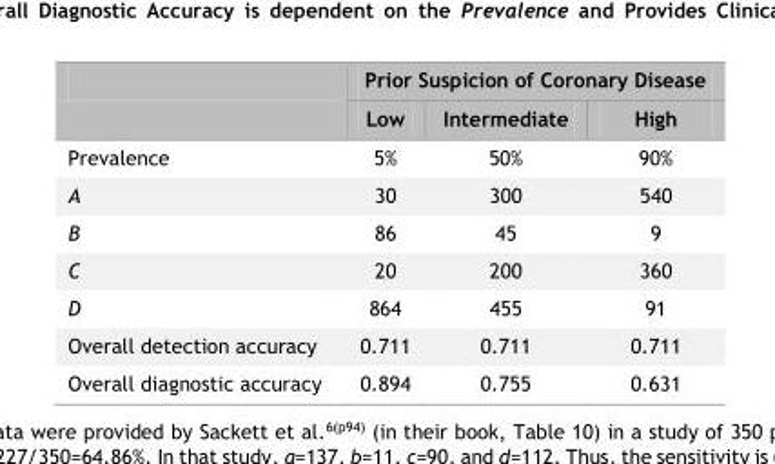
<table><thead><tr><td rowspan="2"></td><td colspan="3">Prior Suspicion of Coronary Disease</td></tr><tr><td>Low</td><td>Intermediate</td><td>High</td></tr></thead><tbody><tr><td>Prevalence</td><td>5%</td><td>50%</td><td>90%</td></tr><tr><td>A</td><td>30</td><td>300</td><td>540</td></tr><tr><td>B</td><td>86</td><td>45</td><td>9</td></tr><tr><td>C</td><td>20</td><td>200</td><td>360</td></tr><tr><td>D</td><td>864</td><td>455</td><td>91</td></tr><tr><td>Overall detection accuracy</td><td>0.711</td><td>0.711</td><td>0.711</td></tr><tr><td>Overall diagnostic accuracy</td><td>0.894</td><td>0.755</td><td>0.631</td></tr></tbody></table>